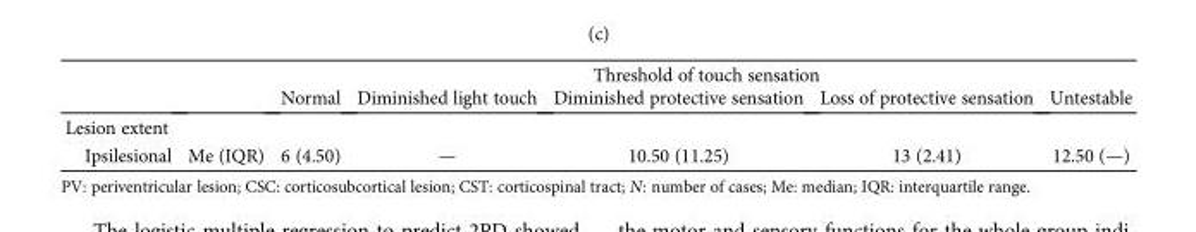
<table><thead><tr><td rowspan="2"></td><td rowspan="2"></td><td colspan="5">Threshold of touch sensation</td></tr><tr><td>Normal</td><td>Diminished light touch</td><td>Diminished protective sensation</td><td>Loss of protective sensation</td><td>Untestable</td></tr></thead><tbody><tr><td colspan="7">Lesion extent</td></tr><tr><td>Ipsilesional</td><td>Me (IQR)</td><td>6 (4.50)</td><td>—</td><td>10.50 (11.25)</td><td>13 (2.41)</td><td>12.50 (—)</td></tr></tbody></table>